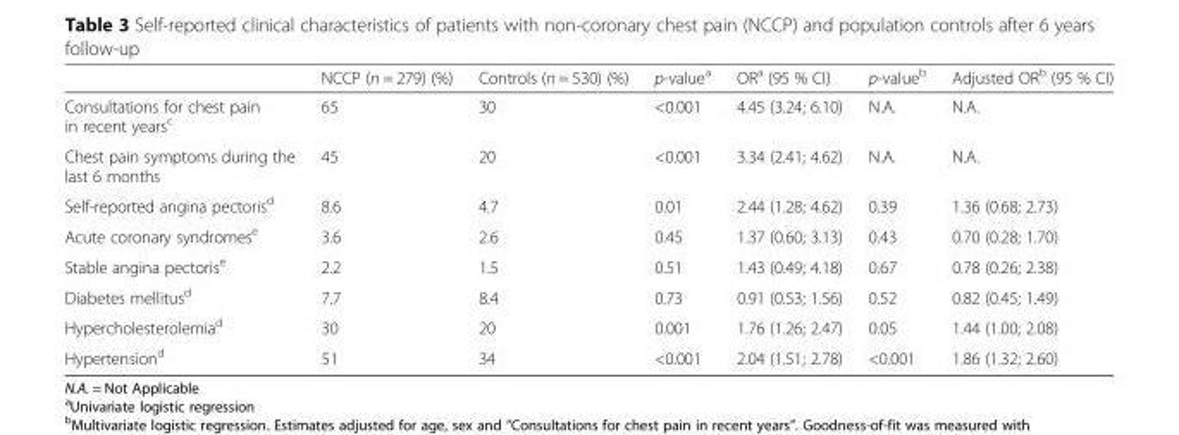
<table><thead><tr><td></td><td>NCCP (n = 279) (%)</td><td>Controls (n = 530) (%)</td><td>p-value<sup>a</sup></td><td>OR<sup>a</sup> (95 % CI)</td><td>p-value<sup>b</sup></td><td>Adjusted OR<sup>b</sup> (95 % CI)</td></tr></thead><tbody><tr><td>Consultations for chest pain in recent years<sup>c</sup></td><td>65</td><td>30</td><td>&lt;0.001</td><td>4.45 (3.24; 6.10)</td><td>N.A.</td><td>N.A.</td></tr><tr><td>Chest pain symptoms during the last 6 months</td><td>45</td><td>20</td><td>&lt;0.001</td><td>3.34 (2.41; 4.62)</td><td>N.A.</td><td>N.A.</td></tr><tr><td>Self-reported angina pectoris<sup>d</sup></td><td>8.6</td><td>4.7</td><td>0.01</td><td>2.44 (1.28; 4.62)</td><td>0.39</td><td>1.36 (0.68; 2.73)</td></tr><tr><td>Acute coronary syndromes<sup>e</sup></td><td>3.6</td><td>2.6</td><td>0.45</td><td>1.37 (0.60; 3.13)</td><td>0.43</td><td>0.70 (0.28; 1.70)</td></tr><tr><td>Stable angina pectoris<sup>e</sup></td><td>2.2</td><td>1.5</td><td>0.51</td><td>1.43 (0.49; 4.18)</td><td>0.67</td><td>0.78 (0.26; 2.38)</td></tr><tr><td>Diabetes mellitus<sup>d</sup></td><td>7.7</td><td>8.4</td><td>0.73</td><td>0.91 (0.53; 1.56)</td><td>0.52</td><td>0.82 (0.45; 1.49)</td></tr><tr><td>Hypercholesterolemia<sup>d</sup></td><td>30</td><td>20</td><td>0.001</td><td>1.76 (1.26; 2.47)</td><td>0.05</td><td>1.44 (1.00; 2.08)</td></tr><tr><td>Hypertension<sup>d</sup></td><td>51</td><td>34</td><td>&lt;0.001</td><td>2.04 (1.51; 2.78)</td><td>&lt;0.001</td><td>1.86 (1.32; 2.60)</td></tr></tbody></table>